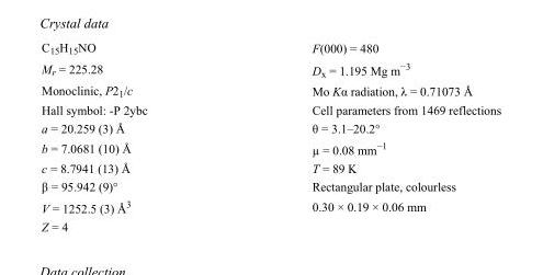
<table><tbody><tr><td>C<sub>15</sub>H<sub>15</sub>NO</td><td>F(000) = 480</td></tr><tr><td>M<sub>r</sub> = 225.28</td><td>D<sub>x</sub> = 1.195 Mg m<sup>−3</sup></td></tr><tr><td>Monoclinic, P2<sub>1</sub>/c</td><td>Mo Kα radiation, λ = 0.71073 Å</td></tr><tr><td>Hall symbol: -P 2ybc</td><td>Cell parameters from 1469 reflections</td></tr><tr><td>a = 20.259 (3) Å</td><td>θ = 3.1–20.2°</td></tr><tr><td>b = 7.0681 (10) Å</td><td>µ = 0.08 mm<sup>−1</sup></td></tr><tr><td>c = 8.7941 (13) Å</td><td>T = 89 K</td></tr><tr><td>β = 95.942 (9)°</td><td>Rectangular plate, colourless</td></tr><tr><td>V = 1252.5 (3) Å<sup>3</sup></td><td>0.30 × 0.19 × 0.06 mm</td></tr><tr><td>Z = 4</td><td></td></tr></tbody></table>